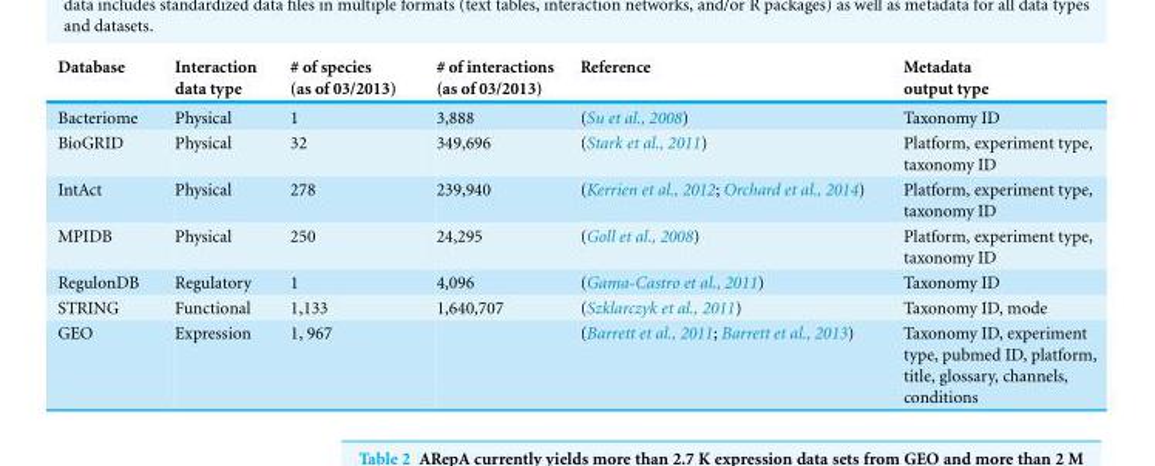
<table><thead><tr><td>Database</td><td>Interaction data type</td><td># of species (as of 03/2013)</td><td># of interactions (as of 03/2013)</td><td>Reference</td><td>Metadata output type</td></tr></thead><tbody><tr><td>Bacteriome</td><td>Physical</td><td>1</td><td>3,888</td><td>(Su et al., 2008)</td><td>Taxonomy ID</td></tr><tr><td>BioGRID</td><td>Physical</td><td>32</td><td>349,696</td><td>(Stark et al., 2011)</td><td>Platform, experiment type, taxonomy ID</td></tr><tr><td>IntAct</td><td>Physical</td><td>278</td><td>239,940</td><td>(Kerrien et al., 2012; Orchard et al., 2014)</td><td>Platform, experiment type, taxonomy ID</td></tr><tr><td>MPIDB</td><td>Physical</td><td>250</td><td>24,295</td><td>(Goll et al., 2008)</td><td>Platform, experiment type, taxonomy ID</td></tr><tr><td>RegulonDB</td><td>Regulatory</td><td>1</td><td>4,096</td><td>(Gama-Castro et al., 2011)</td><td>Taxonomy ID</td></tr><tr><td>STRING</td><td>Functional</td><td>1,133</td><td>1,640,707</td><td>(Szklarczyk et al., 2011)</td><td>Taxonomy ID, mode</td></tr><tr><td>GEO</td><td>Expression</td><td>1, 967</td><td></td><td>(Barrett et al., 2011; Barrett et al., 2013)</td><td>Taxonomy ID, experiment type, pubmed ID, platform, title, glossary, channels, conditions</td></tr></tbody></table>